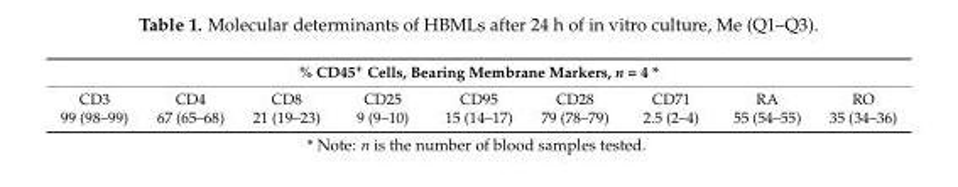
<table><thead><tr><td colspan="9">% CD45<sup>+</sup> Cells, Bearing Membrane Markers, n = 4 *</td></tr><tr><td>CD3</td><td>CD4</td><td>CD8</td><td>CD25</td><td>CD95</td><td>CD28</td><td>CD71</td><td>RA</td><td>RO</td></tr></thead><tbody><tr><td>99 (98–99)</td><td>67 (65–68)</td><td>21 (19–23)</td><td>9 (9–10)</td><td>15 (14–17)</td><td>79 (78–79)</td><td>2.5 (2–4)</td><td>55 (54–55)</td><td>35 (34–36)</td></tr></tbody></table>